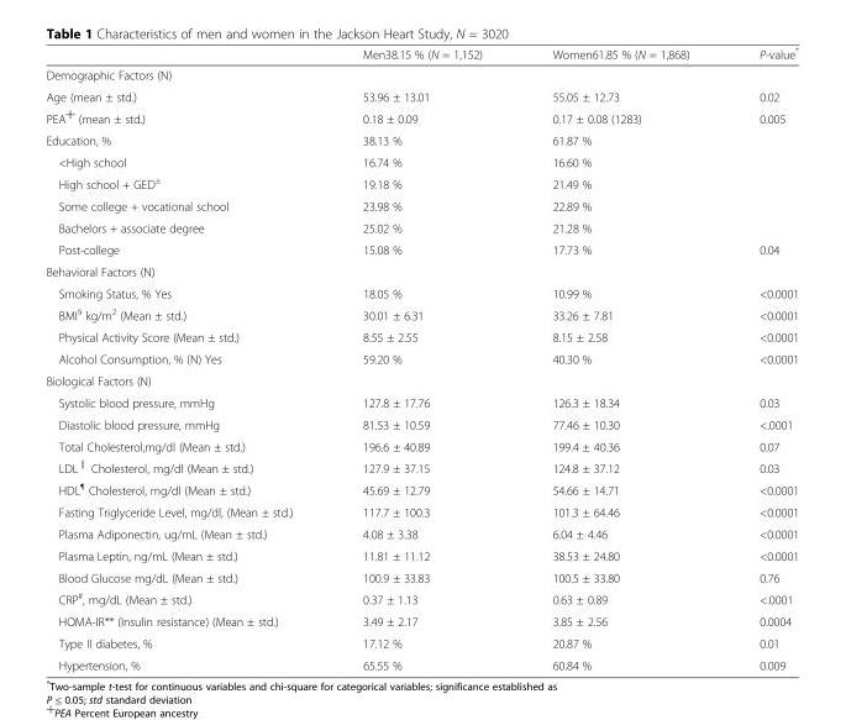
<table><thead><tr><td></td><td>Men38.15 % (N = 1,152)</td><td>Women61.85 % (N = 1,868)</td><td>P-value*</td></tr></thead><tbody><tr><td colspan="4">Demographic Factors (N)</td></tr><tr><td>Age (mean ± std.)</td><td>53.96 ± 13.01</td><td>55.05 ± 12.73</td><td>0.02</td></tr><tr><td>PEA<sup>┼</sup> (mean ± std.)</td><td>0.18 ± 0.09</td><td>0.17 ± 0.08 (1283)</td><td>0.005</td></tr><tr><td>Education, %</td><td>38.13 %</td><td>61.87 %</td><td></td></tr><tr><td>&lt;High school</td><td>16.74 %</td><td>16.60 %</td><td></td></tr><tr><td>High school + GED<sup>±</sup></td><td>19.18 %</td><td>21.49 %</td><td></td></tr><tr><td>Some college + vocational school</td><td>23.98 %</td><td>22.89 %</td><td></td></tr><tr><td>Bachelors + associate degree</td><td>25.02 %</td><td>21.28 %</td><td></td></tr><tr><td>Post-college</td><td>15.08 %</td><td>17.73 %</td><td>0.04</td></tr><tr><td colspan="4">Behavioral Factors (N)</td></tr><tr><td>Smoking Status, % Yes</td><td>18.05 %</td><td>10.99 %</td><td>&lt;0.0001</td></tr><tr><td>BMI<sup>§</sup> kg/m<sup>2</sup> (Mean ± std.)</td><td>30.01 ± 6.31</td><td>33.26 ± 7.81</td><td>&lt;0.0001</td></tr><tr><td>Physical Activity Score (Mean ± std.)</td><td>8.55 ± 2.55</td><td>8.15 ± 2.58</td><td>&lt;0.0001</td></tr><tr><td>Alcohol Consumption, % (N) Yes</td><td>59.20 %</td><td>40.30 %</td><td>&lt;0.0001</td></tr><tr><td colspan="4">Biological Factors (N)</td></tr><tr><td>Systolic blood pressure, mmHg</td><td>127.8 ± 17.76</td><td>126.3 ± 18.34</td><td>0.03</td></tr><tr><td>Diastolic blood pressure, mmHg</td><td>81.53 ± 10.59</td><td>77.46 ± 10.30</td><td>&lt;.0001</td></tr><tr><td>Total Cholesterol,mg/dl (Mean ± std.)</td><td>196.6 ± 40.89</td><td>199.4 ± 40.36</td><td>0.07</td></tr><tr><td>LDL<sup>║</sup> Cholesterol, mg/dl (Mean ± std.)</td><td>127.9 ± 37.15</td><td>124.8 ± 37.12</td><td>0.03</td></tr><tr><td>HDL<sup>¶</sup> Cholesterol, mg/dl (Mean ± std.)</td><td>45.69 ± 12.79</td><td>54.66 ± 14.71</td><td>&lt;0.0001</td></tr><tr><td>Fasting Triglyceride Level, mg/dl, (Mean ± std.)</td><td>117.7 ± 100.3</td><td>101.3 ± 64.46</td><td>&lt;0.0001</td></tr><tr><td>Plasma Adiponectin, ug/mL (Mean ± std.)</td><td>4.08 ± 3.38</td><td>6.04 ± 4.46</td><td>&lt;0.0001</td></tr><tr><td>Plasma Leptin, ng/mL (Mean ± std.)</td><td>11.81 ± 11.12</td><td>38.53 ± 24.80</td><td>&lt;0.0001</td></tr><tr><td>Blood Glucose mg/dL (Mean ± std.)</td><td>100.9 ± 33.83</td><td>100.5 ± 33.80</td><td>0.76</td></tr><tr><td>CRP<sup>#</sup>, mg/dL (Mean ± std.)</td><td>0.37 ± 1.13</td><td>0.63 ± 0.89</td><td>&lt;.0001</td></tr><tr><td>HOMA-IR** (Insulin resistance) (Mean ± std.)</td><td>3.49 ± 2.17</td><td>3.85 ± 2.56</td><td>0.0004</td></tr><tr><td>Type II diabetes, %</td><td>17.12 %</td><td>20.87 %</td><td>0.01</td></tr><tr><td>Hypertension, %</td><td>65.55 %</td><td>60.84 %</td><td>0.009</td></tr></tbody></table>